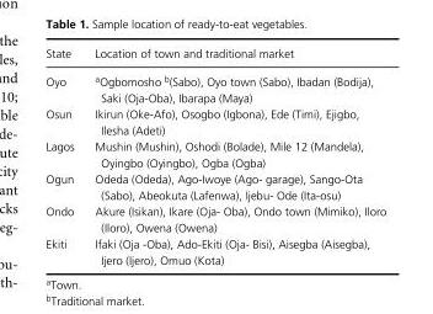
<table><thead><tr><td>State</td><td>Location of town and traditional market</td></tr></thead><tbody><tr><td>Oyo</td><td>a Ogbomosho b (Sabo), Oyo town (Sabo), Ibadan (Bodija), Saki (Oja- Oba), Ibarapa (Maya)</td></tr><tr><td>Osun</td><td>Ikirun (Oke- Afo), Osogbo (Igbona), Ede (Timi), Ejigbo, Ilesha (Adeti)</td></tr><tr><td>Lagos</td><td>Mushin (Mushin), Oshodi (Bolade), Mile 12 (Mandela), Oyingbo (Oyingbo), Ogba (Ogba)</td></tr><tr><td>Ogun</td><td>Odeda (Odeda), Ago- Iwoye (Ago- garage), Sango- Ota (Sabo), Abeokuta (Lafenwa), Ijebu- Ode (Ita- osu)</td></tr><tr><td>Ondo</td><td>Akure (Isikan), Ikare (Oja- Oba), Ondo town (Mimiko), Iloro (Iloro), Owena (Owena)</td></tr><tr><td>Ekiti</td><td>Ifaki (Oja - Oba), Ado- Ekiti (Oja- Bisi), Aisegba (Aisegba), Ijero (Ijero), Omuo (Kota)</td></tr></tbody></table>